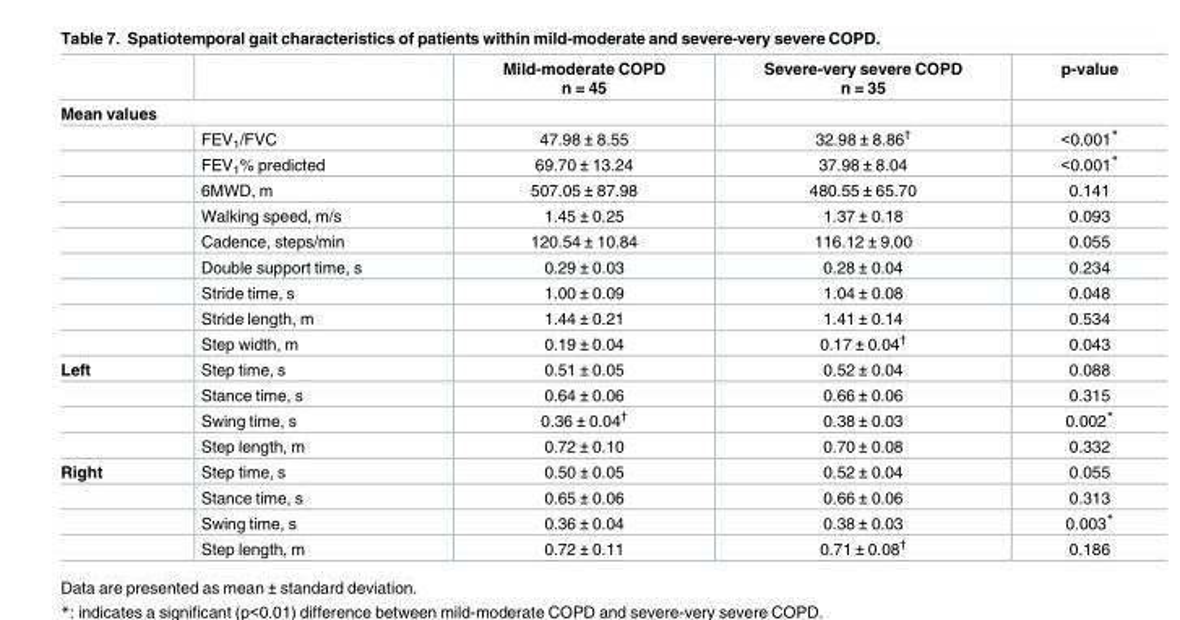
<table><thead><tr><td></td><td></td><td>Mild-moderate COPD n = 45</td><td>Severe-very severe COPD n = 35</td><td>p-value</td></tr></thead><tbody><tr><td colspan="5">Mean values</td></tr><tr><td></td><td>FEV<sub>1</sub>/FVC</td><td>47.98 ± 8.55</td><td>32.98 ± 8.86<sup>†</sup></td><td>&lt;0.001*</td></tr><tr><td></td><td>FEV<sub>1</sub>% predicted</td><td>69.70 ± 13.24</td><td>37.98 ± 8.04</td><td>&lt;0.001*</td></tr><tr><td></td><td>6MWD, m</td><td>507.05 ± 87.98</td><td>480.55 ± 65.70</td><td>0.141</td></tr><tr><td></td><td>Walking speed, m/s</td><td>1.45 ± 0.25</td><td>1.37 ± 0.18</td><td>0.093</td></tr><tr><td></td><td>Cadence, steps/min</td><td>120.54 ± 10.84</td><td>116.12 ± 9.00</td><td>0.055</td></tr><tr><td></td><td>Double support time, s</td><td>0.29 ± 0.03</td><td>0.28 ± 0.04</td><td>0.234</td></tr><tr><td></td><td>Stride time, s</td><td>1.00 ± 0.09</td><td>1.04 ± 0.08</td><td>0.048</td></tr><tr><td></td><td>Stride length, m</td><td>1.44 ± 0.21</td><td>1.41 ± 0.14</td><td>0.534</td></tr><tr><td></td><td>Step width, m</td><td>0.19 ± 0.04</td><td>0.17 ± 0.04<sup>†</sup></td><td>0.043</td></tr><tr><td rowspan="4">Left</td><td>Step time, s</td><td>0.51 ± 0.05</td><td>0.52 ± 0.04</td><td>0.088</td></tr><tr><td>Stance time, s</td><td>0.64 ± 0.06</td><td>0.66 ± 0.06</td><td>0.315</td></tr><tr><td>Swing time, s</td><td>0.36 ± 0.04<sup>†</sup></td><td>0.38 ± 0.03</td><td>0.002*</td></tr><tr><td>Step length, m</td><td>0.72 ± 0.10</td><td>0.70 ± 0.08</td><td>0.332</td></tr><tr><td rowspan="4">Right</td><td>Step time, s</td><td>0.50 ± 0.05</td><td>0.52 ± 0.04</td><td>0.055</td></tr><tr><td>Stance time, s</td><td>0.65 ± 0.06</td><td>0.66 ± 0.06</td><td>0.313</td></tr><tr><td>Swing time, s</td><td>0.36 ± 0.04</td><td>0.38 ± 0.03</td><td>0.003*</td></tr><tr><td>Step length, m</td><td>0.72 ± 0.11</td><td>0.71 ± 0.08<sup>†</sup></td><td>0.186</td></tr></tbody></table>